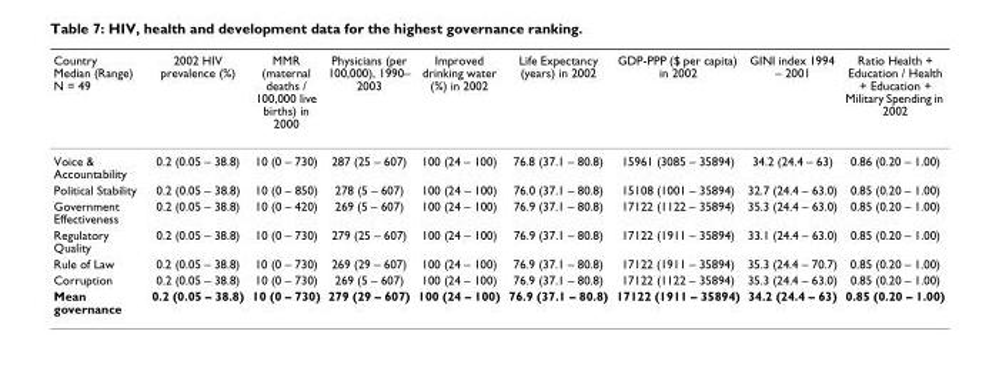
<table><thead><tr><td>Country Median (Range) N = 49</td><td>2002 HIV prevalence (%)</td><td>MMR (maternal deaths / 100,000 live births) in 2000</td><td>Physicians (per 100,000), 1990– 2003</td><td>Improved drinking water (%) in 2002</td><td>Life Expectancy (years) in 2002</td><td>GDP-PPP ($ per capita) in 2002</td><td>GINI index 1994 – 2001</td><td>Ratio Health + Education / Health + Education + Military Spending in 2002</td></tr></thead><tbody><tr><td>Voice &amp; Accountability</td><td>0.2 (0.05 – 38.8)</td><td>10 (0 – 730)</td><td>287 (25 – 607)</td><td>100 (24 – 100)</td><td>76.8 (37.1 – 80.8)</td><td>15961 (3085 – 35894)</td><td>34.2 (24.4 – 63)</td><td>0.86 (0.20 – 1.00)</td></tr><tr><td>Political Stability</td><td>0.2 (0.05 – 38.8)</td><td>10 (0 – 850)</td><td>278 (5 – 607)</td><td>100 (24 – 100)</td><td>76.0 (37.1 – 80.8)</td><td>15108 (1001 – 35894)</td><td>32.7 (24.4 – 63.0)</td><td>0.85 (0.20 – 1.00)</td></tr><tr><td>Government Effectiveness</td><td>0.2 (0.05 – 38.8)</td><td>10 (0 – 420)</td><td>269 (5 – 607)</td><td>100 (24 – 100)</td><td>76.9 (37.1 – 80.8)</td><td>17122 (1122 – 35894)</td><td>35.3 (24.4 – 63.0)</td><td>0.85 (0.20 – 1.00)</td></tr><tr><td>Regulatory Quality</td><td>0.2 (0.05 – 38.8)</td><td>10 (0 – 730)</td><td>279 (25 – 607)</td><td>100 (24 – 100)</td><td>76.9 (37.1 – 80.8)</td><td>17122 (1911 – 35894)</td><td>33.1 (24.4 – 63.0)</td><td>0.85 (0.20 – 1.00)</td></tr><tr><td>Rule of Law</td><td>0.2 (0.05 – 38.8)</td><td>10 (0 – 730)</td><td>269 (29 – 607)</td><td>100 (24 – 100)</td><td>76.9 (37.1 – 80.8)</td><td>17122 (1911 – 35894)</td><td>35.3 (24.4 – 70.7)</td><td>0.85 (0.20 – 1.00)</td></tr><tr><td>Corruption</td><td>0.2 (0.05 – 38.8)</td><td>10 (0 – 730)</td><td>269 (5 – 607)</td><td>100 (24 – 100)</td><td>76.9 (37.1 – 80.8)</td><td>17122 (1122 – 35894)</td><td>35.3 (24.4 – 63.0)</td><td>0.85 (0.20 – 1.00)</td></tr><tr><td>Mean governance</td><td>0.2 (0.05 – 38.8)</td><td>10 (0 – 730)</td><td>279 (29 – 607)</td><td>100 (24 – 100)</td><td>76.9 (37.1 – 80.8)</td><td>17122 (1911 – 35894)</td><td>34.2 (24.4 – 63)</td><td>0.85 (0.20 – 1.00)</td></tr></tbody></table>